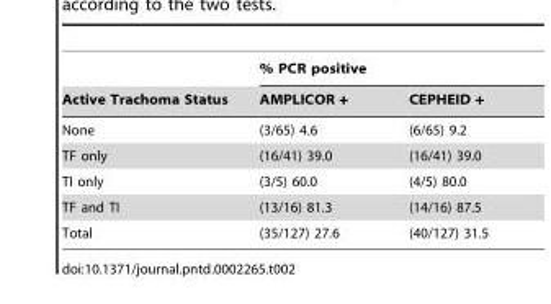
<table><thead><tr><td rowspan="2">Active Trachoma Status</td><td colspan="2">% PCR positive</td></tr><tr><td>AMPLICOR +</td><td>CEPHEID +</td></tr></thead><tbody><tr><td>None</td><td>(3/65) 4.6</td><td>(6/65) 9.2</td></tr><tr><td>TF only</td><td>(16/41) 39.0</td><td>(16/41) 39.0</td></tr><tr><td>TI only</td><td>(3/5) 60.0</td><td>(4/5) 80.0</td></tr><tr><td>TF and TI</td><td>(13/16) 81.3</td><td>(14/16) 87.5</td></tr><tr><td>Total</td><td>(35/127) 27.6</td><td>(40/127) 31.5</td></tr></tbody></table>